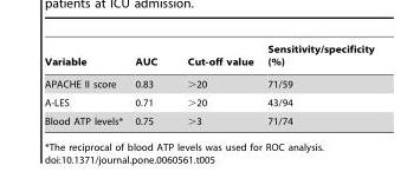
<table><thead><tr><td>Variable</td><td>AUC</td><td>Cut-off value</td><td>Sensitivity/specificity (%)</td></tr></thead><tbody><tr><td>APACHE II score</td><td>0.83</td><td>&gt;20</td><td>71/59</td></tr><tr><td>A-LES</td><td>0.71</td><td>&gt;20</td><td>43/94</td></tr><tr><td>Blood ATP levels*</td><td>0.75</td><td>&gt;3</td><td>71/74</td></tr></tbody></table>